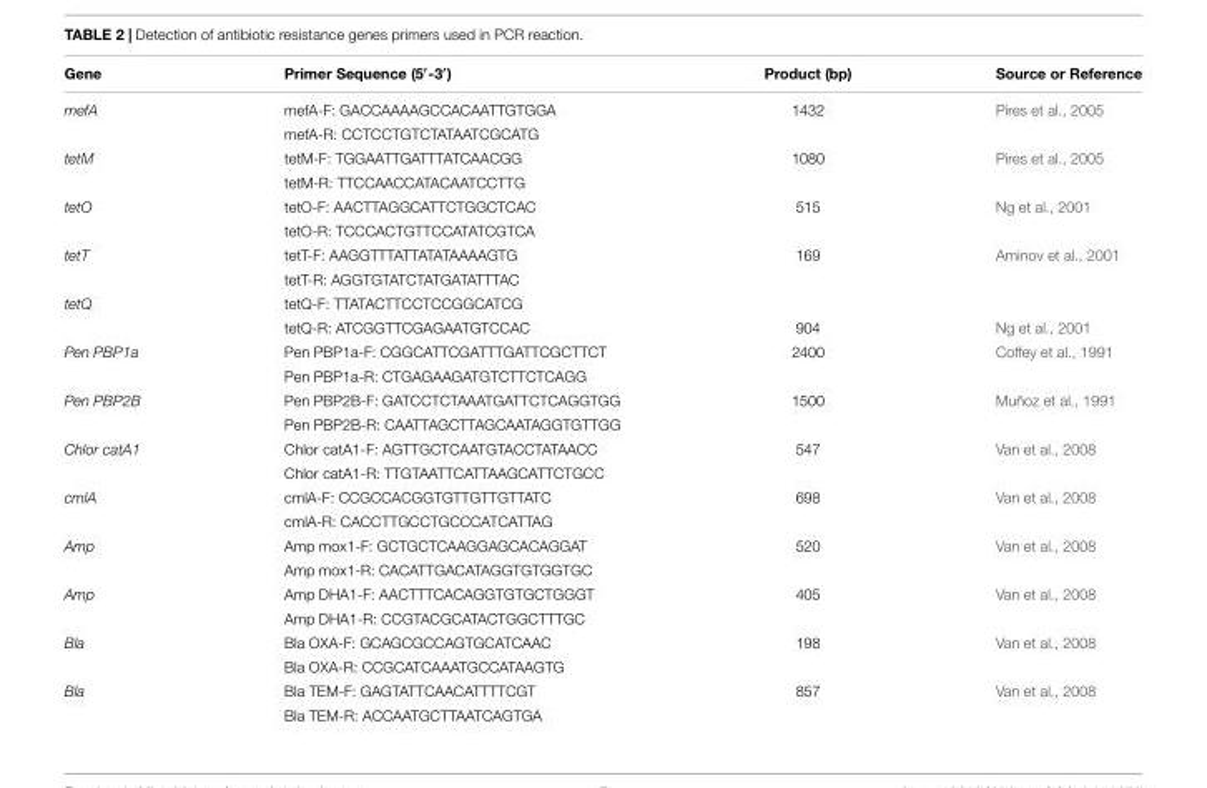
<table><thead><tr><td>Gene</td><td>Primer Sequence (5′-3′)</td><td>Product (bp)</td><td>Source or Reference</td></tr></thead><tbody><tr><td rowspan="2">mefA</td><td>mefA-F: GACCAAAAGCCACAATTGTGGA</td><td>1432</td><td>Pires et al., 2005</td></tr><tr><td>mefA-R: CCTCCTGTCTATAATCGCATG</td><td></td><td></td></tr><tr><td rowspan="2">tetM</td><td>tetM-F: TGGAATTGATTTATCAACGG</td><td>1080</td><td>Pires et al., 2005</td></tr><tr><td>tetM-R: TTCCAACCATACAATCCTTG</td><td></td><td></td></tr><tr><td rowspan="2">tetO</td><td>tetO-F: AACTTAGGCATTCTGGCTCAC</td><td>515</td><td>Ng et al., 2001</td></tr><tr><td>tetO-R: TCCCACTGTTCCATATCGTCA</td><td></td><td></td></tr><tr><td rowspan="2">tetT</td><td>tetT-F: AAGGTTTATTATATAAAAGTG</td><td>169</td><td>Aminov et al., 2001</td></tr><tr><td>tetT-R: AGGTGTATCTATGATATTTAC</td><td></td><td></td></tr><tr><td rowspan="2">tetQ</td><td>tetQ-F: TTATACTTCCTCCGGCATCG</td><td></td><td></td></tr><tr><td>tetQ-R: ATCGGTTCGAGAATGTCCAC</td><td>904</td><td>Ng et al., 2001</td></tr><tr><td rowspan="2">Pen PBP1a</td><td>Pen PBP1a-F: CGGCATTCGATTTGATTCGCTTCT</td><td>2400</td><td>Coffey et al., 1991</td></tr><tr><td>Pen PBP1a-R: CTGAGAAGATGTCTTCTCAGG</td><td></td><td></td></tr><tr><td rowspan="2">Pen PBP2B</td><td>Pen PBP2B-F: GATCCTCTAAATGATTCTCAGGTGG</td><td>1500</td><td>Muñoz et al., 1991</td></tr><tr><td>Pen PBP2B-R: CAATTAGCTTAGCAATAGGTGTTGG</td><td></td><td></td></tr><tr><td rowspan="2">Chlor catA1</td><td>Chlor catA1-F: AGTTGCTCAATGTACCTATAACC</td><td>547</td><td>Van et al., 2008</td></tr><tr><td>Chlor catA1-R: TTGTAATTCATTAAGCATTCTGCC</td><td></td><td></td></tr><tr><td rowspan="2">cmlA</td><td>cmlA-F: CCGCCACGGTGTTGTTGTTATC</td><td>698</td><td>Van et al., 2008</td></tr><tr><td>cmlA-R: CACCTTGCCTGCCCATCATTAG</td><td></td><td></td></tr><tr><td rowspan="2">Amp</td><td>Amp mox1-F: GCTGCTCAAGGAGCACAGGAT</td><td>520</td><td>Van et al., 2008</td></tr><tr><td>Amp mox1-R: CACATTGACATAGGTGTGGTGC</td><td></td><td></td></tr><tr><td rowspan="2">Amp</td><td>Amp DHA1-F: AACTTTCACAGGTGTGCTGGGT</td><td>405</td><td>Van et al., 2008</td></tr><tr><td>Amp DHA1-R: CCGTACGCATACTGGCTTTGC</td><td></td><td></td></tr><tr><td rowspan="2">Bla</td><td>Bla OXA-F: GCAGCGCCAGTGCATCAAC</td><td>198</td><td>Van et al., 2008</td></tr><tr><td>Bla OXA-R: CCGCATCAAATGCCATAAGTG</td><td></td><td></td></tr><tr><td rowspan="2">Bla</td><td>Bla TEM-F: GAGTATTCAACATTTTCGT</td><td>857</td><td>Van et al., 2008</td></tr><tr><td>Bla TEM-R: ACCAATGCTTAATCAGTGA</td><td></td><td></td></tr></tbody></table>